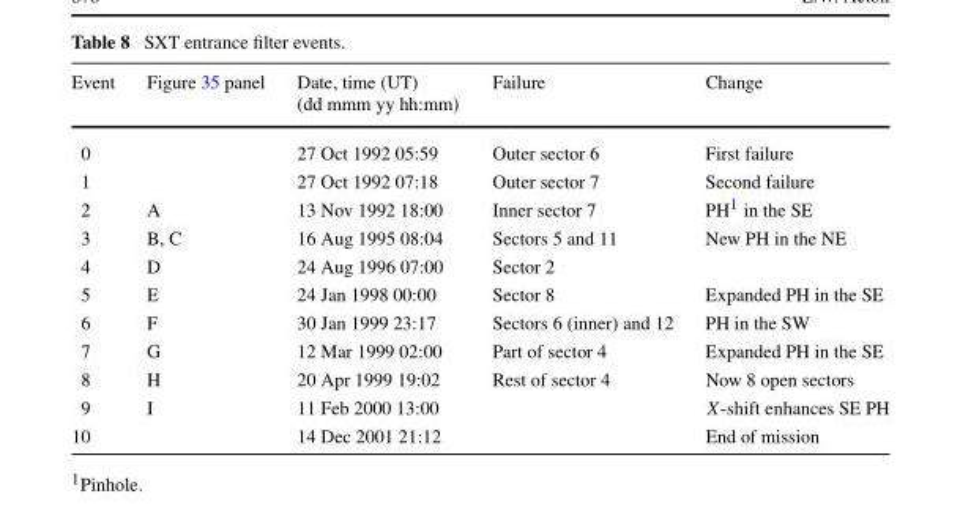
<table><thead><tr><td>Event</td><td>Figure 35 panel</td><td>Date, time (UT) (dd mmm yy hh:mm)</td><td>Failure</td><td>Change</td></tr></thead><tbody><tr><td>0</td><td></td><td>27 Oct 1992 05:59</td><td>Outer sector 6</td><td>First failure</td></tr><tr><td>1</td><td></td><td>27 Oct 1992 07:18</td><td>Outer sector 7</td><td>Second failure</td></tr><tr><td>2</td><td>A</td><td>13 Nov 1992 18:00</td><td>Inner sector 7</td><td>PH<sup>1</sup> in the SE</td></tr><tr><td>3</td><td>B, C</td><td>16 Aug 1995 08:04</td><td>Sectors 5 and 11</td><td>New PH in the NE</td></tr><tr><td>4</td><td>D</td><td>24 Aug 1996 07:00</td><td>Sector 2</td><td></td></tr><tr><td>5</td><td>E</td><td>24 Jan 1998 00:00</td><td>Sector 8</td><td>Expanded PH in the SE</td></tr><tr><td>6</td><td>F</td><td>30 Jan 1999 23:17</td><td>Sectors 6 (inner) and 12</td><td>PH in the SW</td></tr><tr><td>7</td><td>G</td><td>12 Mar 1999 02:00</td><td>Part of sector 4</td><td>Expanded PH in the SE</td></tr><tr><td>8</td><td>H</td><td>20 Apr 1999 19:02</td><td>Rest of sector 4</td><td>Now 8 open sectors</td></tr><tr><td>9</td><td>I</td><td>11 Feb 2000 13:00</td><td></td><td>X-shift enhances SE PH</td></tr><tr><td>10</td><td></td><td>14 Dec 2001 21:12</td><td></td><td>End of mission</td></tr></tbody></table>